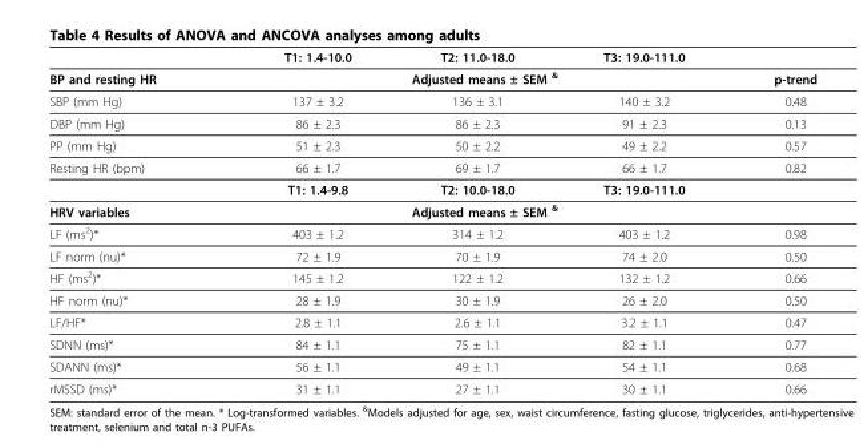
<table><thead><tr><td></td><td>T1: 1.4-10.0</td><td>T2: 11.0-18.0</td><td>T3: 19.0-111.0</td><td></td></tr></thead><tbody><tr><td>BP and resting HR</td><td colspan="3">Adjusted means ± SEM <sup>&amp;</sup></td><td>p-trend</td></tr><tr><td>SBP (mm Hg)</td><td>137 ± 3.2</td><td>136 ± 3.1</td><td>140 ± 3.2</td><td>0.48</td></tr><tr><td>DBP (mm Hg)</td><td>86 ± 2.3</td><td>86 ± 2.3</td><td>91 ± 2.3</td><td>0.13</td></tr><tr><td>PP (mm Hg)</td><td>51 ± 2.3</td><td>50 ± 2.2</td><td>49 ± 2.2</td><td>0.57</td></tr><tr><td rowspan="2">Resting HR (bpm)</td><td>66 ± 1.7</td><td>69 ± 1.7</td><td>66 ± 1.7</td><td>0.82</td></tr><tr><td>T1: 1.4-9.8</td><td>T2: 10.0-18.0</td><td>T3: 19.0-111.0</td><td></td></tr><tr><td>HRV variables</td><td colspan="3">Adjusted means ± SEM <sup>&amp;</sup></td><td></td></tr><tr><td>LF (ms<sup>2</sup>)*</td><td>403 ± 1.2</td><td>314 ± 1.2</td><td>403 ± 1.2</td><td>0.98</td></tr><tr><td>LF norm (nu)*</td><td>72 ± 1.9</td><td>70 ± 1.9</td><td>74 ± 2.0</td><td>0.50</td></tr><tr><td>HF (ms<sup>2</sup>)*</td><td>145 ± 1.2</td><td>122 ± 1.2</td><td>132 ± 1.2</td><td>0.66</td></tr><tr><td>HF norm (nu)*</td><td>28 ± 1.9</td><td>30 ± 1.9</td><td>26 ± 2.0</td><td>0.50</td></tr><tr><td>LF/HF*</td><td>2.8 ± 1.1</td><td>2.6 ± 1.1</td><td>3.2 ± 1.1</td><td>0.47</td></tr><tr><td>SDNN (ms)*</td><td>84 ± 1.1</td><td>75 ± 1.1</td><td>82 ± 1.1</td><td>0.77</td></tr><tr><td>SDANN (ms)*</td><td>56 ± 1.1</td><td>49 ± 1.1</td><td>54 ± 1.1</td><td>0.68</td></tr><tr><td>rMSSD (ms)*</td><td>31 ± 1.1</td><td>27 ± 1.1</td><td>30 ± 1.1</td><td>0.66</td></tr></tbody></table>